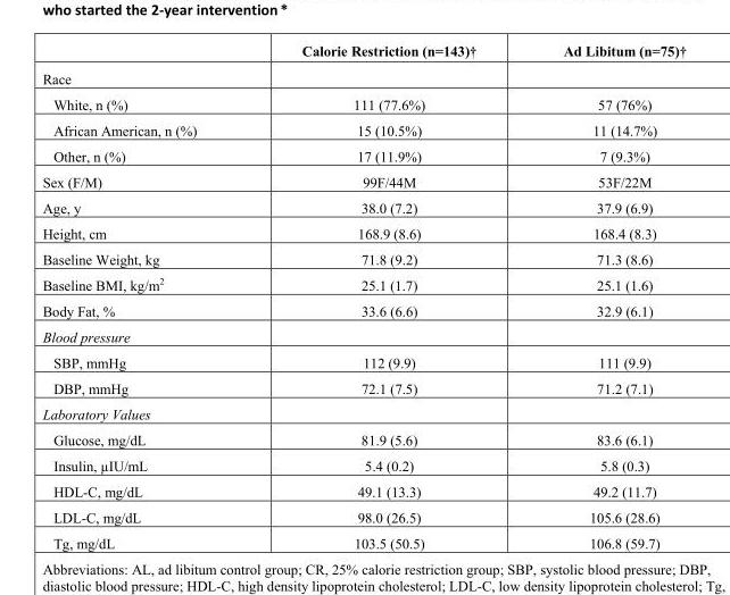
<table><thead><tr><td></td><td>Calorie Restriction (n=143)<sup>†</sup></td><td>Ad Libitum (n=75)<sup>†</sup></td></tr></thead><tbody><tr><td colspan="3">Race</td></tr><tr><td>White, n (%)</td><td>111 (77.6%)</td><td>57 (76%)</td></tr><tr><td>African American, n (%)</td><td>15 (10.5%)</td><td>11 (14.7%)</td></tr><tr><td>Other, n (%)</td><td>17 (11.9%)</td><td>7 (9.3%)</td></tr><tr><td>Sex (F/M)</td><td>99F/44M</td><td>53F/22M</td></tr><tr><td>Age, y</td><td>38.0 (7.2)</td><td>37.9 (6.9)</td></tr><tr><td>Height, cm</td><td>168.9 (8.6)</td><td>168.4 (8.3)</td></tr><tr><td>Baseline Weight, kg</td><td>71.8 (9.2)</td><td>71.3 (8.6)</td></tr><tr><td>Baseline BMI, kg/m<sup>2</sup></td><td>25.1 (1.7)</td><td>25.1 (1.6)</td></tr><tr><td>Body Fat, %</td><td>33.6 (6.6)</td><td>32.9 (6.1)</td></tr><tr><td colspan="3">Blood pressure</td></tr><tr><td>SBP, mmHg</td><td>112 (9.9)</td><td>111 (9.9)</td></tr><tr><td>DBP, mmHg</td><td>72.1 (7.5)</td><td>71.2 (7.1)</td></tr><tr><td colspan="3">Laboratory Values</td></tr><tr><td>Glucose, mg/dL</td><td>81.9 (5.6)</td><td>83.6 (6.1)</td></tr><tr><td>Insulin, µIU/mL</td><td>5.4 (0.2)</td><td>5.8 (0.3)</td></tr><tr><td>HDL-C, mg/dL</td><td>49.1 (13.3)</td><td>49.2 (11.7)</td></tr><tr><td>LDL-C, mg/dL</td><td>98.0 (26.5)</td><td>105.6 (28.6)</td></tr><tr><td>Tg, mg/dL</td><td>103.5 (50.5)</td><td>106.8 (59.7)</td></tr></tbody></table>